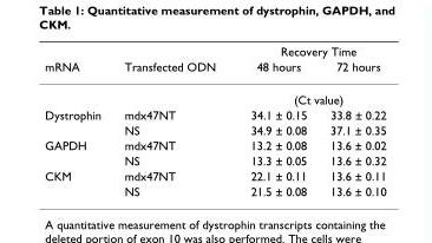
<table><thead><tr><td rowspan="2">mRNA</td><td rowspan="2">Transfected ODN</td><td colspan="2">Recovery Time</td></tr><tr><td>48 hours</td><td>72 hours</td></tr></thead><tbody><tr><td></td><td></td><td colspan="2">(Ct value)</td></tr><tr><td rowspan="2">Dystrophin</td><td>mdx47NT</td><td>34.1 ± 0.15</td><td>33.8 ± 0.22</td></tr><tr><td>NS</td><td>34.9 ± 0.08</td><td>37.1 ± 0.35</td></tr><tr><td rowspan="2">GAPDH</td><td>mdx47NT</td><td>13.2 ± 0.08</td><td>13.6 ± 0.02</td></tr><tr><td>NS</td><td>13.3 ± 0.05</td><td>13.6 ± 0.32</td></tr><tr><td rowspan="2">CKM</td><td>mdx47NT</td><td>22.1 ± 0.11</td><td>13.6 ± 0.11</td></tr><tr><td>NS</td><td>21.5 ± 0.08</td><td>13.6 ± 0.10</td></tr></tbody></table>